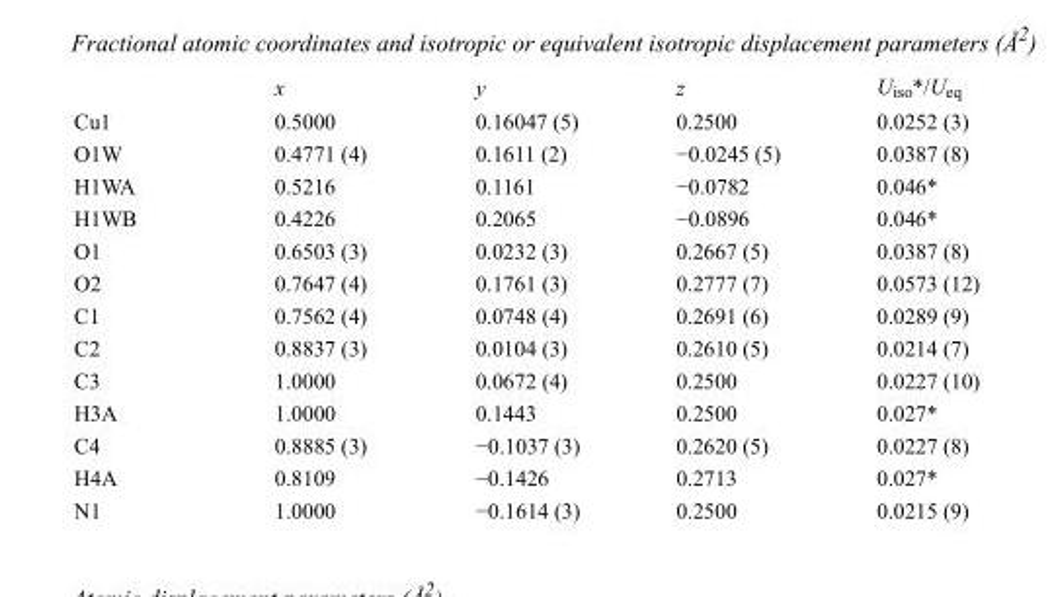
<table><thead><tr><td></td><td>x</td><td>y</td><td>z</td><td>U<sub>iso</sub>*/U<sub>eq</sub></td></tr></thead><tbody><tr><td>Cu1</td><td>0.5000</td><td>0.16047 (5)</td><td>0.2500</td><td>0.0252 (3)</td></tr><tr><td>O1W</td><td>0.4771 (4)</td><td>0.1611 (2)</td><td>−0.0245 (5)</td><td>0.0387 (8)</td></tr><tr><td>H1WA</td><td>0.5216</td><td>0.1161</td><td>−0.0782</td><td>0.046*</td></tr><tr><td>H1WB</td><td>0.4226</td><td>0.2065</td><td>−0.0896</td><td>0.046*</td></tr><tr><td>O1</td><td>0.6503 (3)</td><td>0.0232 (3)</td><td>0.2667 (5)</td><td>0.0387 (8)</td></tr><tr><td>O2</td><td>0.7647 (4)</td><td>0.1761 (3)</td><td>0.2777 (7)</td><td>0.0573 (12)</td></tr><tr><td>C1</td><td>0.7562 (4)</td><td>0.0748 (4)</td><td>0.2691 (6)</td><td>0.0289 (9)</td></tr><tr><td>C2</td><td>0.8837 (3)</td><td>0.0104 (3)</td><td>0.2610 (5)</td><td>0.0214 (7)</td></tr><tr><td>C3</td><td>1.0000</td><td>0.0672 (4)</td><td>0.2500</td><td>0.0227 (10)</td></tr><tr><td>H3A</td><td>1.0000</td><td>0.1443</td><td>0.2500</td><td>0.027*</td></tr><tr><td>C4</td><td>0.8885 (3)</td><td>−0.1037 (3)</td><td>0.2620 (5)</td><td>0.0227 (8)</td></tr><tr><td>H4A</td><td>0.8109</td><td>−0.1426</td><td>0.2713</td><td>0.027*</td></tr><tr><td>N1</td><td>1.0000</td><td>−0.1614 (3)</td><td>0.2500</td><td>0.0215 (9)</td></tr></tbody></table>